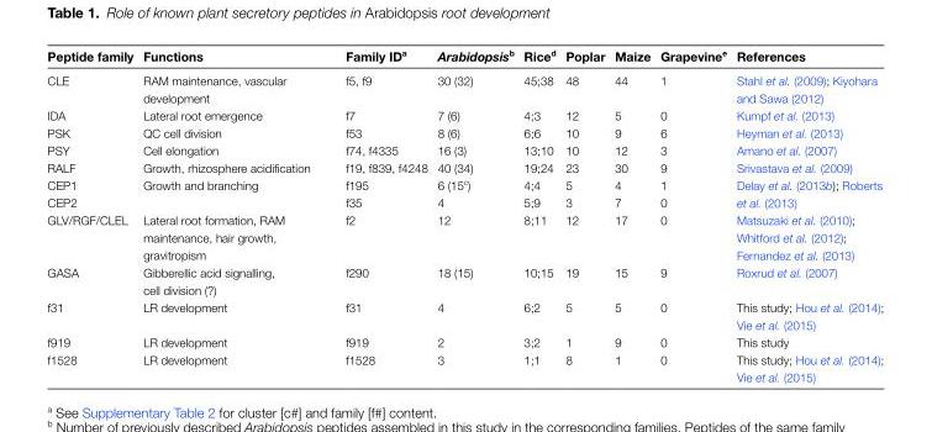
<table><thead><tr><td>Peptide family</td><td>Functions</td><td>Family ID<sup>a</sup></td><td>Arabidopsis<sup>b</sup></td><td>Rice<sup>d</sup></td><td>Poplar</td><td>Maize</td><td>Grapevine<sup>e</sup></td><td>References</td></tr></thead><tbody><tr><td>CLE</td><td>RAM maintenance, vascular development</td><td>f5, f9</td><td>30 (32)</td><td>45;38</td><td>48</td><td>44</td><td>1</td><td>Stahl et al. (2009); Kiyohara and Sawa (2012)</td></tr><tr><td>IDA</td><td>Lateral root emergence</td><td>f7</td><td>7 (6)</td><td>4;3</td><td>12</td><td>5</td><td>0</td><td>Kumpf et al. (2013)</td></tr><tr><td>PSK</td><td>QC cell division</td><td>f53</td><td>8 (6)</td><td>6;6</td><td>10</td><td>9</td><td>6</td><td>Heyman et al. (2013)</td></tr><tr><td>PSY</td><td>Cell elongation</td><td>f74, f4335</td><td>16 (3)</td><td>13;10</td><td>10</td><td>12</td><td>3</td><td>Amano et al. (2007)</td></tr><tr><td>RALF</td><td>Growth, rhizosphere acidification</td><td>f19, f839, f4248</td><td>40 (34)</td><td>19;24</td><td>23</td><td>30</td><td>9</td><td>Srivastava et al. (2009)</td></tr><tr><td>CEP1</td><td rowspan="2">Growth and branching</td><td>f195</td><td>6 (15<sup>c</sup>)</td><td>4;4</td><td>5</td><td>4</td><td>1</td><td rowspan="2">Delay et al. (2013b); Roberts et al. (2013)</td></tr><tr><td>CEP2</td><td>f35</td><td>4</td><td>5;9</td><td>3</td><td>7</td><td>0</td></tr><tr><td>GLV/RGF/CLEL</td><td>Lateral root formation, RAM maintenance, hair growth, gravitropism</td><td>f2</td><td>12</td><td>8;11</td><td>12</td><td>17</td><td>0</td><td>Matsuzaki et al. (2010); Whitford et al. (2012); Fernandez et al. (2013)</td></tr><tr><td>GASA</td><td>Gibberellic acid signalling, cell division (?)</td><td>f290</td><td>18 (15)</td><td>10;15</td><td>19</td><td>15</td><td>9</td><td>Roxrud et al. (2007)</td></tr><tr><td>f31</td><td>LR development</td><td>f31</td><td>4</td><td>6;2</td><td>5</td><td>5</td><td>0</td><td>This study; Hou et al. (2014); Vie et al. (2015)</td></tr><tr><td>f919</td><td>LR development</td><td>f919</td><td>2</td><td>3;2</td><td>1</td><td>9</td><td>0</td><td>This study</td></tr><tr><td>f1528</td><td>LR development</td><td>f1528</td><td>3</td><td>1;1</td><td>8</td><td>1</td><td>0</td><td>This study; Hou et al. (2014); Vie et al. (2015)</td></tr></tbody></table>